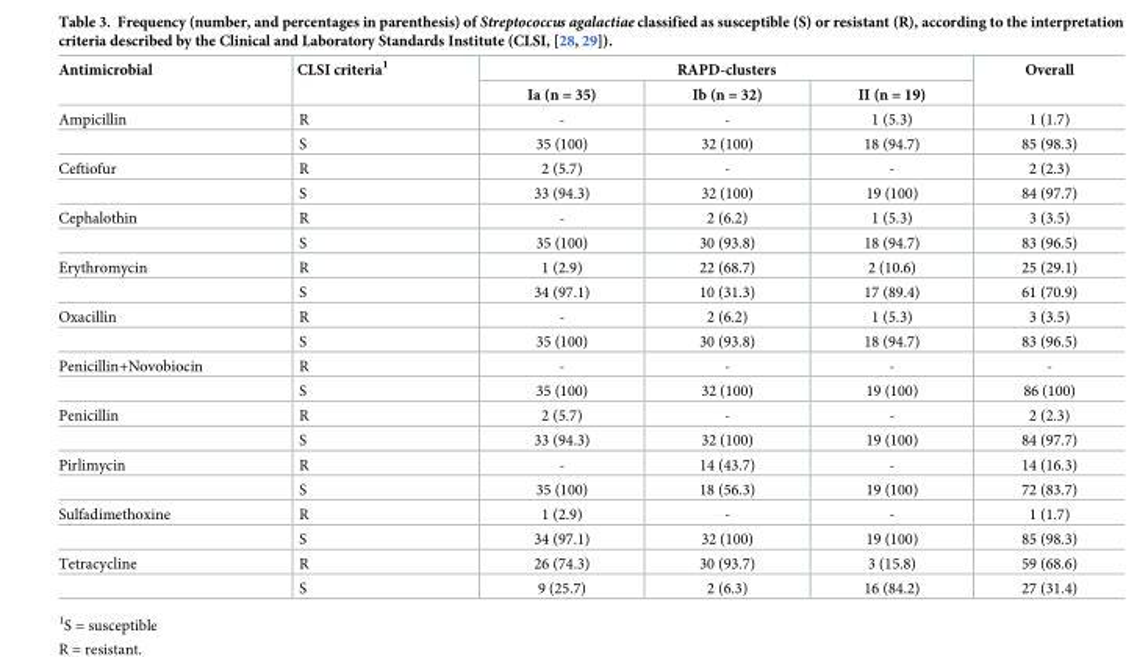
<table><thead><tr><td rowspan="2">Antimicrobial</td><td rowspan="2">CLSI criteria<sup>1</sup></td><td colspan="3">RAPD-clusters</td><td rowspan="2">Overall</td></tr><tr><td>Ia (n = 35)</td><td>Ib (n = 32)</td><td>II (n = 19)</td></tr></thead><tbody><tr><td rowspan="2">Ampicillin</td><td>R</td><td>-</td><td>-</td><td>1 (5.3)</td><td>1 (1.7)</td></tr><tr><td>S</td><td>35 (100)</td><td>32 (100)</td><td>18 (94.7)</td><td>85 (98.3)</td></tr><tr><td rowspan="2">Ceftiofur</td><td>R</td><td>2 (5.7)</td><td>-</td><td>-</td><td>2 (2.3)</td></tr><tr><td>S</td><td>33 (94.3)</td><td>32 (100)</td><td>19 (100)</td><td>84 (97.7)</td></tr><tr><td rowspan="2">Cephalothin</td><td>R</td><td>-</td><td>2 (6.2)</td><td>1 (5.3)</td><td>3 (3.5)</td></tr><tr><td>S</td><td>35 (100)</td><td>30 (93.8)</td><td>18 (94.7)</td><td>83 (96.5)</td></tr><tr><td rowspan="2">Erythromycin</td><td>R</td><td>1 (2.9)</td><td>22 (68.7)</td><td>2 (10.6)</td><td>25 (29.1)</td></tr><tr><td>S</td><td>34 (97.1)</td><td>10 (31.3)</td><td>17 (89.4)</td><td>61 (70.9)</td></tr><tr><td rowspan="2">Oxacillin</td><td>R</td><td>-</td><td>2 (6.2)</td><td>1 (5.3)</td><td>3 (3.5)</td></tr><tr><td>S</td><td>35 (100)</td><td>30 (93.8)</td><td>18 (94.7)</td><td>83 (96.5)</td></tr><tr><td rowspan="2">Penicillin+Novobiocin</td><td>R</td><td>-</td><td>-</td><td>-</td><td>-</td></tr><tr><td>S</td><td>35 (100)</td><td>32 (100)</td><td>19 (100)</td><td>86 (100)</td></tr><tr><td rowspan="2">Penicillin</td><td>R</td><td>2 (5.7)</td><td>-</td><td>-</td><td>2 (2.3)</td></tr><tr><td>S</td><td>33 (94.3)</td><td>32 (100)</td><td>19 (100)</td><td>84 (97.7)</td></tr><tr><td rowspan="2">Pirlimycin</td><td>R</td><td>-</td><td>14 (43.7)</td><td>-</td><td>14 (16.3)</td></tr><tr><td>S</td><td>35 (100)</td><td>18 (56.3)</td><td>19 (100)</td><td>72 (83.7)</td></tr><tr><td rowspan="2">Sulfadimethoxine</td><td>R</td><td>1 (2.9)</td><td>-</td><td>-</td><td>1 (1.7)</td></tr><tr><td>S</td><td>34 (97.1)</td><td>32 (100)</td><td>19 (100)</td><td>85 (98.3)</td></tr><tr><td rowspan="2">Tetracycline</td><td>R</td><td>26 (74.3)</td><td>30 (93.7)</td><td>3 (15.8)</td><td>59 (68.6)</td></tr><tr><td>S</td><td>9 (25.7)</td><td>2 (6.3)</td><td>16 (84.2)</td><td>27 (31.4)</td></tr></tbody></table>